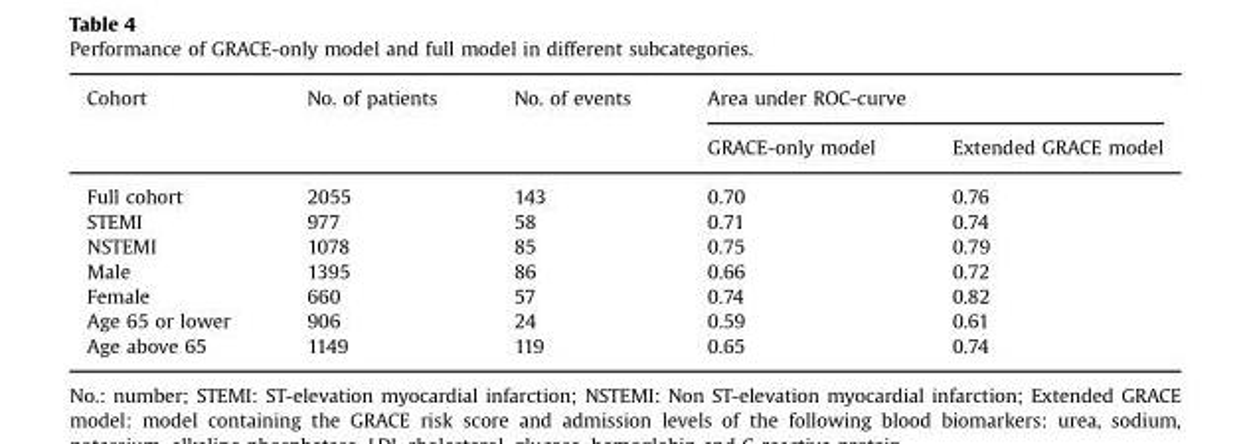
<table><thead><tr><td rowspan="2">Cohort</td><td rowspan="2">No. of patients</td><td rowspan="2">No. of events</td><td colspan="2">Area under ROC-curve</td></tr><tr><td>GRACE-only model</td><td>Extended GRACE model</td></tr></thead><tbody><tr><td>Full cohort</td><td>2055</td><td>143</td><td>0.70</td><td>0.76</td></tr><tr><td>STEMI</td><td>977</td><td>58</td><td>0.71</td><td>0.74</td></tr><tr><td>NSTEMI</td><td>1078</td><td>85</td><td>0.75</td><td>0.79</td></tr><tr><td>Male</td><td>1395</td><td>86</td><td>0.66</td><td>0.72</td></tr><tr><td>Female</td><td>660</td><td>57</td><td>0.74</td><td>0.82</td></tr><tr><td>Age 65 or lower</td><td>906</td><td>24</td><td>0.59</td><td>0.61</td></tr><tr><td>Age above 65</td><td>1149</td><td>119</td><td>0.65</td><td>0.74</td></tr></tbody></table>